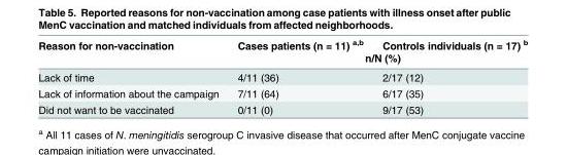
<table><thead><tr><td rowspan="2">Reason for non-vaccination</td><td>Cases patients (n = 11) <sup>a,b</sup></td><td>Controls individuals (n = 17) <sup>b</sup></td></tr><tr><td colspan="2">n/N (%)</td></tr></thead><tbody><tr><td>Lack of time</td><td>4/11 (36)</td><td>2/17 (12)</td></tr><tr><td>Lack of information about the campaign</td><td>7/11 (64)</td><td>6/17 (35)</td></tr><tr><td>Did not want to be vaccinated</td><td>0/11 (0)</td><td>9/17 (53)</td></tr></tbody></table>